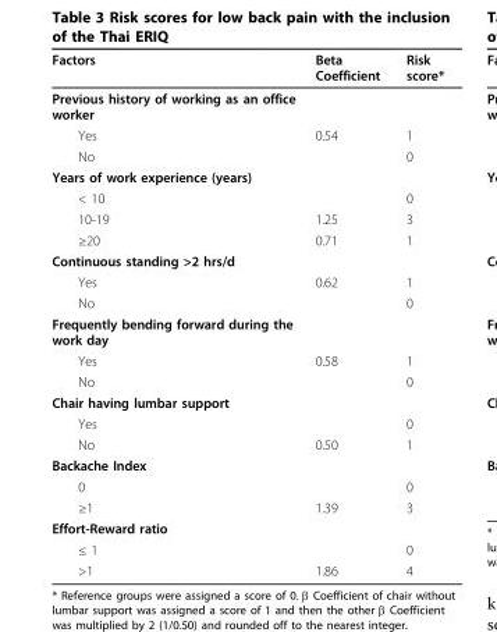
<table><thead><tr><td>Factors</td><td>Beta Coefficient</td><td>Risk score*</td></tr></thead><tbody><tr><td colspan="3">Previous history of working as an office worker</td></tr><tr><td>Yes</td><td>0.54</td><td>1</td></tr><tr><td>No</td><td></td><td>0</td></tr><tr><td colspan="3">Years of work experience (years)</td></tr><tr><td>&lt; 10</td><td></td><td>0</td></tr><tr><td>10-19</td><td>1.25</td><td>3</td></tr><tr><td>≥20</td><td>0.71</td><td>1</td></tr><tr><td colspan="3">Continuous standing &gt;2 hrs/d</td></tr><tr><td>Yes</td><td>0.62</td><td>1</td></tr><tr><td>No</td><td></td><td>0</td></tr><tr><td colspan="3">Frequently bending forward during the work day</td></tr><tr><td>Yes</td><td>0.58</td><td>1</td></tr><tr><td>No</td><td></td><td>0</td></tr><tr><td colspan="3">Chair having lumbar support</td></tr><tr><td>Yes</td><td></td><td>0</td></tr><tr><td>No</td><td>0.50</td><td>1</td></tr><tr><td colspan="3">Backache Index</td></tr><tr><td>0</td><td></td><td>0</td></tr><tr><td>≥1</td><td>1.39</td><td>3</td></tr><tr><td colspan="3">Effort-Reward ratio</td></tr><tr><td>≤ 1</td><td></td><td>0</td></tr><tr><td>&gt;1</td><td>1.86</td><td>4</td></tr></tbody></table>